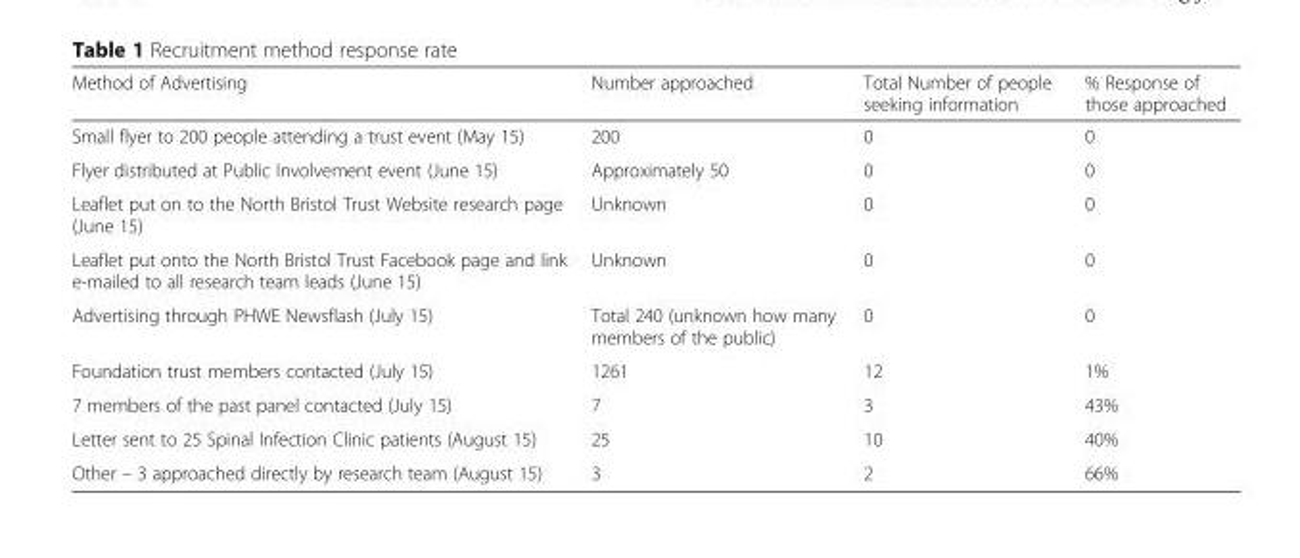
<table><thead><tr><td>Method of Advertising</td><td>Number approached</td><td>Total Number of people seeking information</td><td>% Response of those approached</td></tr></thead><tbody><tr><td>Small flyer to 200 people attending a trust event (May 15)</td><td>200</td><td>0</td><td>0</td></tr><tr><td>Flyer distributed at Public Involvement event (June 15)</td><td>Approximately 50</td><td>0</td><td>0</td></tr><tr><td>Leaflet put on to the North Bristol Trust Website research page (June 15)</td><td>Unknown</td><td>0</td><td>0</td></tr><tr><td>Leaflet put onto the North Bristol Trust Facebook page and link e-mailed to all research team leads (June 15)</td><td>Unknown</td><td>0</td><td>0</td></tr><tr><td>Advertising through PHWE Newsflash (July 15)</td><td>Total 240 (unknown how many members of the public)</td><td>0</td><td>0</td></tr><tr><td>Foundation trust members contacted (July 15)</td><td>1261</td><td>12</td><td>1%</td></tr><tr><td>7 members of the past panel contacted (July 15)</td><td>7</td><td>3</td><td>43%</td></tr><tr><td>Letter sent to 25 Spinal Infection Clinic patients (August 15)</td><td>25</td><td>10</td><td>40%</td></tr><tr><td>Other – 3 approached directly by research team (August 15)</td><td>3</td><td>2</td><td>66%</td></tr></tbody></table>